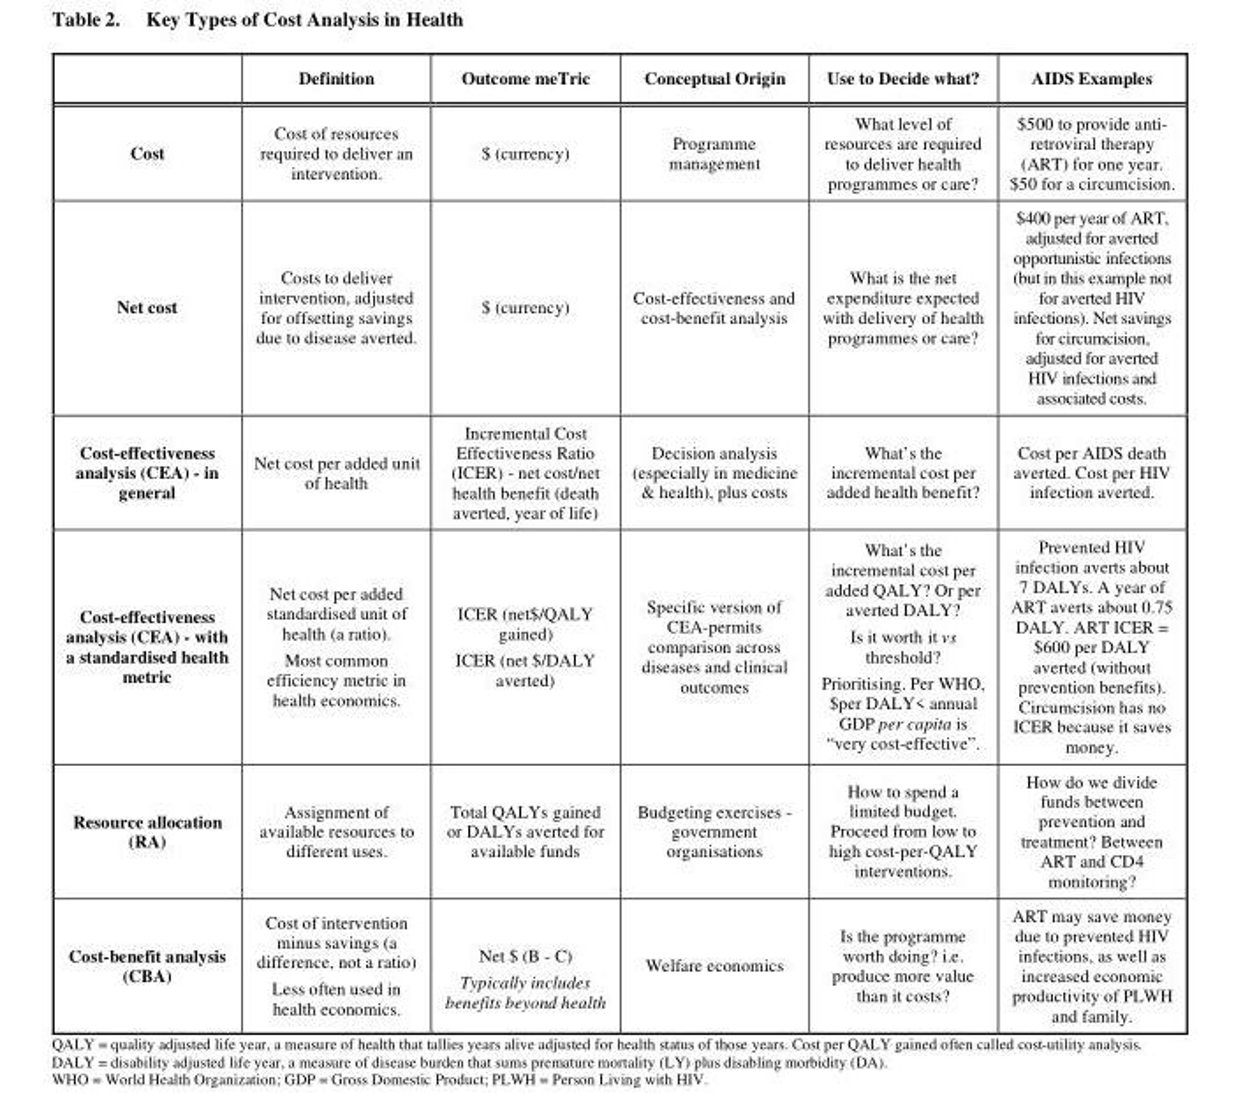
<table><thead><tr><td></td><td>Definition</td><td>Outcome meTric</td><td>Conceptual Origin</td><td>Use to Decide what?</td><td>AIDS Examples</td></tr></thead><tbody><tr><td>Cost</td><td>Cost of resources required to deliver an intervention.</td><td>$ (currency)</td><td>Programme management</td><td>What level of resources are required to deliver health programmes or care?</td><td>$500 to provide anti- retroviral therapy (ART) for one year. $50 for a circumcision.</td></tr><tr><td>Net cost</td><td>Costs to deliver intervention, adjusted for offsetting savings due to disease averted.</td><td>$ (currency)</td><td>Cost-effectiveness and cost-benefit analysis</td><td>What is the net expenditure expected with delivery of health programmes or care?</td><td>$400 per year of ART, adjusted for averted opportunistic infections (but in this example not for averted HIV infections). Net savings for circumcision, adjusted for averted HIV infections and associated costs.</td></tr><tr><td>Cost-effectiveness analysis (CEA) - in general</td><td>Net cost per added unit of health</td><td>Incremental Cost Effectiveness Ratio (ICER) - net cost/net health benefit (death averted, year of life)</td><td>Decision analysis (especially in medicine &amp; health), plus costs</td><td>What’s the incremental cost per added health benefit?</td><td>Cost per AIDS death averted. Cost per HIV infection averted.</td></tr><tr><td>Cost-effectiveness analysis (CEA) - with a standardised health metric</td><td>Net cost per added standardised unit of health (a ratio). Most common efficiency metric in health economics.</td><td>ICER (net$/QALY gained) ICER (net $/DALY averted)</td><td>Specific version of CEA-permits comparison across diseases and clinical outcomes</td><td>What’s the incremental cost per added QALY? Or per averted DALY? Is it worth it vs threshold? Prioritising. Per WHO, $per DALY&lt; annual GDP per capita is “very cost-effective”.</td><td>Prevented HIV infection averts about 7 DALYs. A year of ART averts about 0.75 DALY. ART ICER = $600 per DALY averted (without prevention benefits). Circumcision has no ICER because it saves money.</td></tr><tr><td>Resource allocation (RA)</td><td>Assignment of available resources to different uses.</td><td>Total QALYs gained or DALYs averted for available funds</td><td>Budgeting exercises - government organisations</td><td>How to spend a limited budget. Proceed from low to high cost-per-QALY interventions.</td><td>How do we divide funds between prevention and treatment? Between ART and CD4 monitoring?</td></tr><tr><td>Cost-benefit analysis (CBA)</td><td>Cost of intervention minus savings (a difference, not a ratio) Less often used in health economics.</td><td>Net $ (B - C) Typically includes benefits beyond health</td><td>Welfare economics</td><td>Is the programme worth doing? i.e. produce more value than it costs?</td><td>ART may save money due to prevented HIV infections, as well as increased economic productivity of PLWH and family.</td></tr></tbody></table>